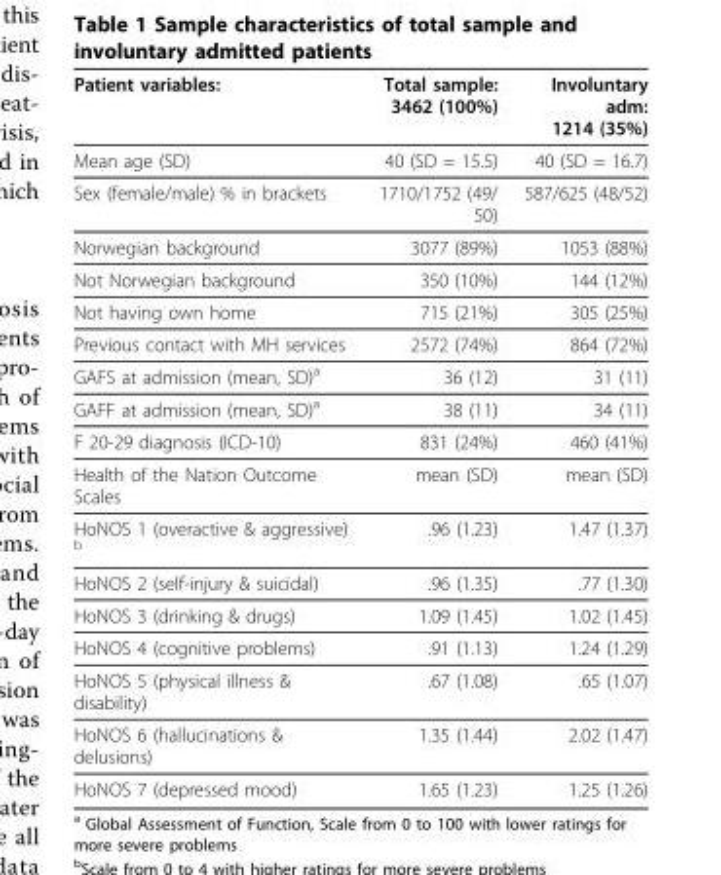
<table><thead><tr><td>Patient variables:</td><td>Total sample: 3462 (100%)</td><td>Involuntary adm: 1214 (35%)</td></tr></thead><tbody><tr><td>Mean age (SD)</td><td>40 (SD = 15.5)</td><td>40 (SD = 16.7)</td></tr><tr><td>Sex (female/male) % in brackets</td><td>1710/1752 (49/ 50)</td><td>587/625 (48/52)</td></tr><tr><td>Norwegian background</td><td>3077 (89%)</td><td>1053 (88%)</td></tr><tr><td>Not Norwegian background</td><td>350 (10%)</td><td>144 (12%)</td></tr><tr><td>Not having own home</td><td>715 (21%)</td><td>305 (25%)</td></tr><tr><td>Previous contact with MH services</td><td>2572 (74%)</td><td>864 (72%)</td></tr><tr><td>GAFS at admission (mean, SD)<sup>a</sup></td><td>36 (12)</td><td>31 (11)</td></tr><tr><td>GAFF at admission (mean, SD)<sup>a</sup></td><td>38 (11)</td><td>34 (11)</td></tr><tr><td>F 20-29 diagnosis (ICD-10)</td><td>831 (24%)</td><td>460 (41%)</td></tr><tr><td>Health of the Nation Outcome Scales</td><td>mean (SD)</td><td>mean (SD)</td></tr><tr><td>HoNOS 1 (overactive &amp; aggressive) <sup>b</sup></td><td>.96 (1.23)</td><td>1.47 (1.37)</td></tr><tr><td>HoNOS 2 (self-injury &amp; suicidal)</td><td>.96 (1.35)</td><td>.77 (1.30)</td></tr><tr><td>HoNOS 3 (drinking &amp; drugs)</td><td>1.09 (1.45)</td><td>1.02 (1.45)</td></tr><tr><td>HoNOS 4 (cognitive problems)</td><td>.91 (1.13)</td><td>1.24 (1.29)</td></tr><tr><td>HoNOS 5 (physical illness &amp; disability)</td><td>.67 (1.08)</td><td>.65 (1.07)</td></tr><tr><td>HoNOS 6 (hallucinations &amp; delusions)</td><td>1.35 (1.44)</td><td>2.02 (1.47)</td></tr><tr><td>HoNOS 7 (depressed mood)</td><td>1.65 (1.23)</td><td>1.25 (1.26)</td></tr></tbody></table>